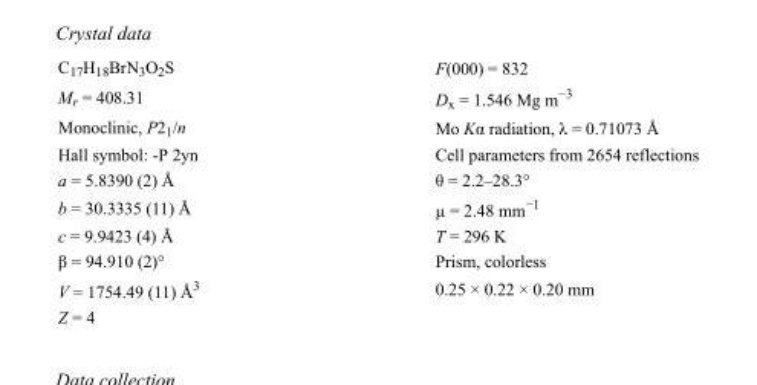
<table><tbody><tr><td>C<sub>17</sub>H<sub>18</sub>BrN<sub>3</sub>O<sub>2</sub>S</td><td>F(000) = 832</td></tr><tr><td>M<sub>r</sub> = 408.31</td><td>D<sub>x</sub> = 1.546 Mg m<sup>−3</sup></td></tr><tr><td>Monoclinic, P2<sub>1</sub>/n</td><td>Mo Kα radiation, λ = 0.71073 Å</td></tr><tr><td>Hall symbol: -P 2yn</td><td>Cell parameters from 2654 reflections</td></tr><tr><td>a = 5.8390 (2) Å</td><td>θ = 2.2–28.3°</td></tr><tr><td>b = 30.3335 (11) Å</td><td>µ = 2.48 mm<sup>−1</sup></td></tr><tr><td>c = 9.9423 (4) Å</td><td>T = 296 K</td></tr><tr><td>β = 94.910 (2)°</td><td>Prism, colorless</td></tr><tr><td>V = 1754.49 (11) Å<sup>3</sup></td><td>0.25 × 0.22 × 0.20 mm</td></tr><tr><td>Z = 4</td><td></td></tr></tbody></table>